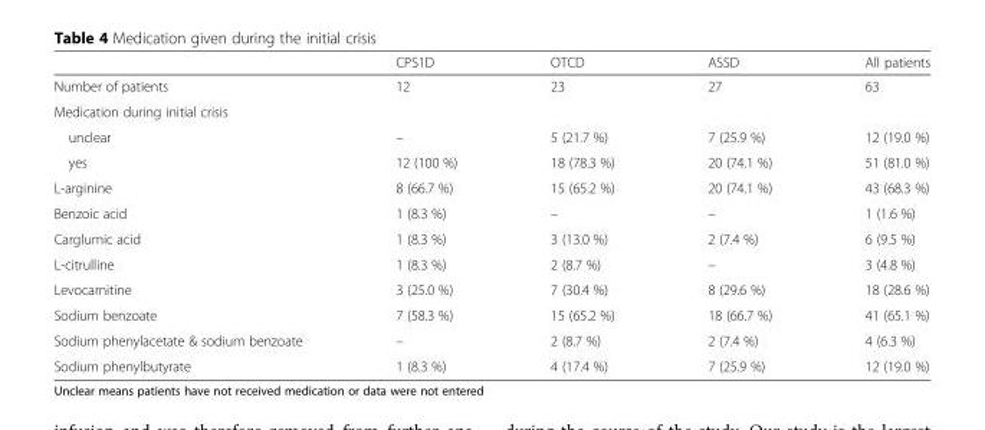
<table><thead><tr><td></td><td>CPS1D</td><td>OTCD</td><td>ASSD</td><td>All patients</td></tr></thead><tbody><tr><td>Number of patients</td><td>12</td><td>23</td><td>27</td><td>63</td></tr><tr><td colspan="5">Medication during initial crisis</td></tr><tr><td>unclear</td><td>–</td><td>5 (21.7 %)</td><td>7 (25.9 %)</td><td>12 (19.0 %)</td></tr><tr><td>yes</td><td>12 (100 %)</td><td>18 (78.3 %)</td><td>20 (74.1 %)</td><td>51 (81.0 %)</td></tr><tr><td>L-arginine</td><td>8 (66.7 %)</td><td>15 (65.2 %)</td><td>20 (74.1 %)</td><td>43 (68.3 %)</td></tr><tr><td>Benzoic acid</td><td>1 (8.3 %)</td><td>–</td><td>–</td><td>1 (1.6 %)</td></tr><tr><td>Carglumic acid</td><td>1 (8.3 %)</td><td>3 (13.0 %)</td><td>2 (7.4 %)</td><td>6 (9.5 %)</td></tr><tr><td>L-citrulline</td><td>1 (8.3 %)</td><td>2 (8.7 %)</td><td>–</td><td>3 (4.8 %)</td></tr><tr><td>Levocarnitine</td><td>3 (25.0 %)</td><td>7 (30.4 %)</td><td>8 (29.6 %)</td><td>18 (28.6 %)</td></tr><tr><td>Sodium benzoate</td><td>7 (58.3 %)</td><td>15 (65.2 %)</td><td>18 (66.7 %)</td><td>41 (65.1 %)</td></tr><tr><td>Sodium phenylacetate &amp; sodium benzoate</td><td>–</td><td>2 (8.7 %)</td><td>2 (7.4 %)</td><td>4 (6.3 %)</td></tr><tr><td>Sodium phenylbutyrate</td><td>1 (8.3 %)</td><td>4 (17.4 %)</td><td>7 (25.9 %)</td><td>12 (19.0 %)</td></tr></tbody></table>